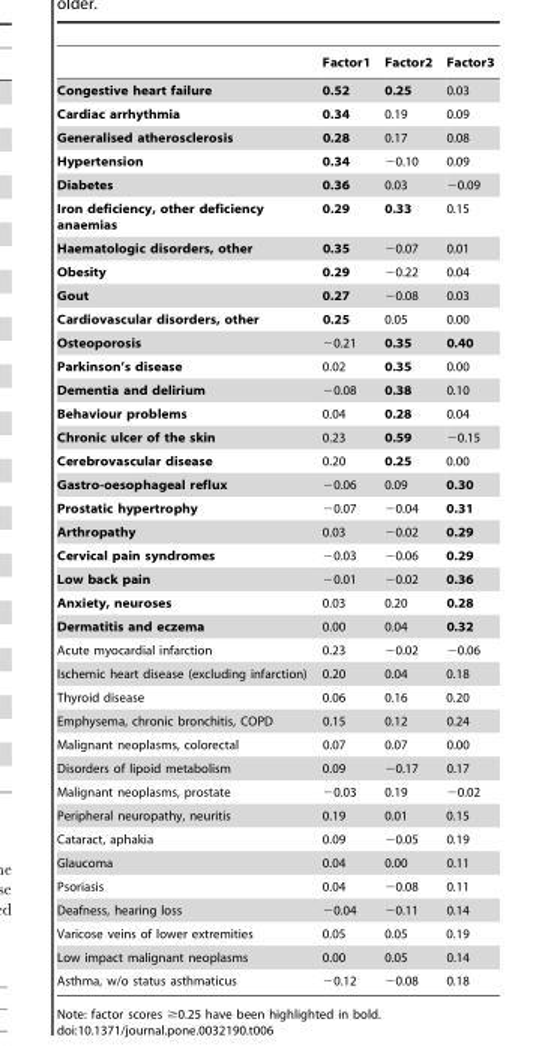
<table><thead><tr><td></td><td>Factor1</td><td>Factor2</td><td>Factor3</td></tr></thead><tbody><tr><td>Congestive heart failure</td><td>0.52</td><td>0.25</td><td>0.03</td></tr><tr><td>Cardiac arrhythmia</td><td>0.34</td><td>0.19</td><td>0.09</td></tr><tr><td>Generalised atherosclerosis</td><td>0.28</td><td>0.17</td><td>0.08</td></tr><tr><td>Hypertension</td><td>0.34</td><td>−0.10</td><td>0.09</td></tr><tr><td>Diabetes</td><td>0.36</td><td>0.03</td><td>−0.09</td></tr><tr><td>Iron deficiency, other deficiency anaemias</td><td>0.29</td><td>0.33</td><td>0.15</td></tr><tr><td>Haematologic disorders, other</td><td>0.35</td><td>−0.07</td><td>0.01</td></tr><tr><td>Obesity</td><td>0.29</td><td>−0.22</td><td>0.04</td></tr><tr><td>Gout</td><td>0.27</td><td>−0.08</td><td>0.03</td></tr><tr><td>Cardiovascular disorders, other</td><td>0.25</td><td>0.05</td><td>0.00</td></tr><tr><td>Osteoporosis</td><td>−0.21</td><td>0.35</td><td>0.40</td></tr><tr><td>Parkinson’s disease</td><td>0.02</td><td>0.35</td><td>0.00</td></tr><tr><td>Dementia and delirium</td><td>−0.08</td><td>0.38</td><td>0.10</td></tr><tr><td>Behaviour problems</td><td>0.04</td><td>0.28</td><td>0.04</td></tr><tr><td>Chronic ulcer of the skin</td><td>0.23</td><td>0.59</td><td>−0.15</td></tr><tr><td>Cerebrovascular disease</td><td>0.20</td><td>0.25</td><td>0.00</td></tr><tr><td>Gastro-oesophageal reflux</td><td>−0.06</td><td>0.09</td><td>0.30</td></tr><tr><td>Prostatic hypertrophy</td><td>−0.07</td><td>−0.04</td><td>0.31</td></tr><tr><td>Arthropathy</td><td>0.03</td><td>−0.02</td><td>0.29</td></tr><tr><td>Cervical pain syndromes</td><td>−0.03</td><td>−0.06</td><td>0.29</td></tr><tr><td>Low back pain</td><td>−0.01</td><td>−0.02</td><td>0.36</td></tr><tr><td>Anxiety, neuroses</td><td>0.03</td><td>0.20</td><td>0.28</td></tr><tr><td>Dermatitis and eczema</td><td>0.00</td><td>0.04</td><td>0.32</td></tr><tr><td>Acute myocardial infarction</td><td>0.23</td><td>−0.02</td><td>−0.06</td></tr><tr><td>Ischemic heart disease (excluding infarction)</td><td>0.20</td><td>0.04</td><td>0.18</td></tr><tr><td>Thyroid disease</td><td>0.06</td><td>0.16</td><td>0.20</td></tr><tr><td>Emphysema, chronic bronchitis, COPD</td><td>0.15</td><td>0.12</td><td>0.24</td></tr><tr><td>Malignant neoplasms, colorectal</td><td>0.07</td><td>0.07</td><td>0.00</td></tr><tr><td>Disorders of lipoid metabolism</td><td>0.09</td><td>−0.17</td><td>0.17</td></tr><tr><td>Malignant neoplasms, prostate</td><td>−0.03</td><td>0.19</td><td>−0.02</td></tr><tr><td>Peripheral neuropathy, neuritis</td><td>0.19</td><td>0.01</td><td>0.15</td></tr><tr><td>Cataract, aphakia</td><td>0.09</td><td>−0.05</td><td>0.19</td></tr><tr><td>Glaucoma</td><td>0.04</td><td>0.00</td><td>0.11</td></tr><tr><td>Psoriasis</td><td>0.04</td><td>−0.08</td><td>0.11</td></tr><tr><td>Deafness, hearing loss</td><td>−0.04</td><td>−0.11</td><td>0.14</td></tr><tr><td>Varicose veins of lower extremities</td><td>0.05</td><td>0.05</td><td>0.19</td></tr><tr><td>Low impact malignant neoplasms</td><td>0.00</td><td>0.05</td><td>0.14</td></tr><tr><td>Asthma, w/o status asthmaticus</td><td>−0.12</td><td>−0.08</td><td>0.18</td></tr></tbody></table>